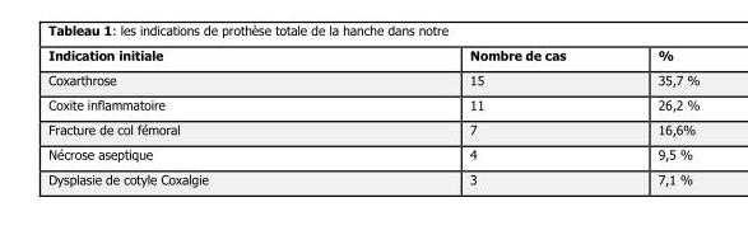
<table><thead><tr><td>Indication initiale</td><td>Nombre de cas</td><td>%</td></tr></thead><tbody><tr><td>Coxarthrose</td><td>15</td><td>35,7 %</td></tr><tr><td>Coxite inflammatoire</td><td>11</td><td>26,2 %</td></tr><tr><td>Fracture de col fémoral</td><td>7</td><td>16,6%</td></tr><tr><td>Nécrose aseptique</td><td>4</td><td>9,5 %</td></tr><tr><td>Dysplasie de cotyle Coxalgie</td><td>3</td><td>7,1 %</td></tr></tbody></table>